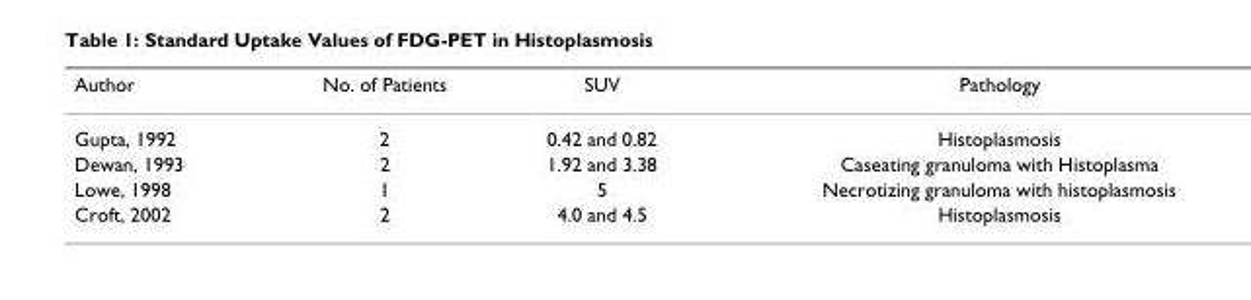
<table><thead><tr><td>Author</td><td>No. of Patients</td><td>SUV</td><td>Pathology</td></tr></thead><tbody><tr><td>Gupta, 1992</td><td>2</td><td>0.42 and 0.82</td><td>Histoplasmosis</td></tr><tr><td>Dewan, 1993</td><td>2</td><td>1.92 and 3.38</td><td>Caseating granuloma with Histoplasma</td></tr><tr><td>Lowe, 1998</td><td>1</td><td>5</td><td>Necrotizing granuloma with histoplasmosis</td></tr><tr><td>Croft, 2002</td><td>2</td><td>4.0 and 4.5</td><td>Histoplasmosis</td></tr></tbody></table>